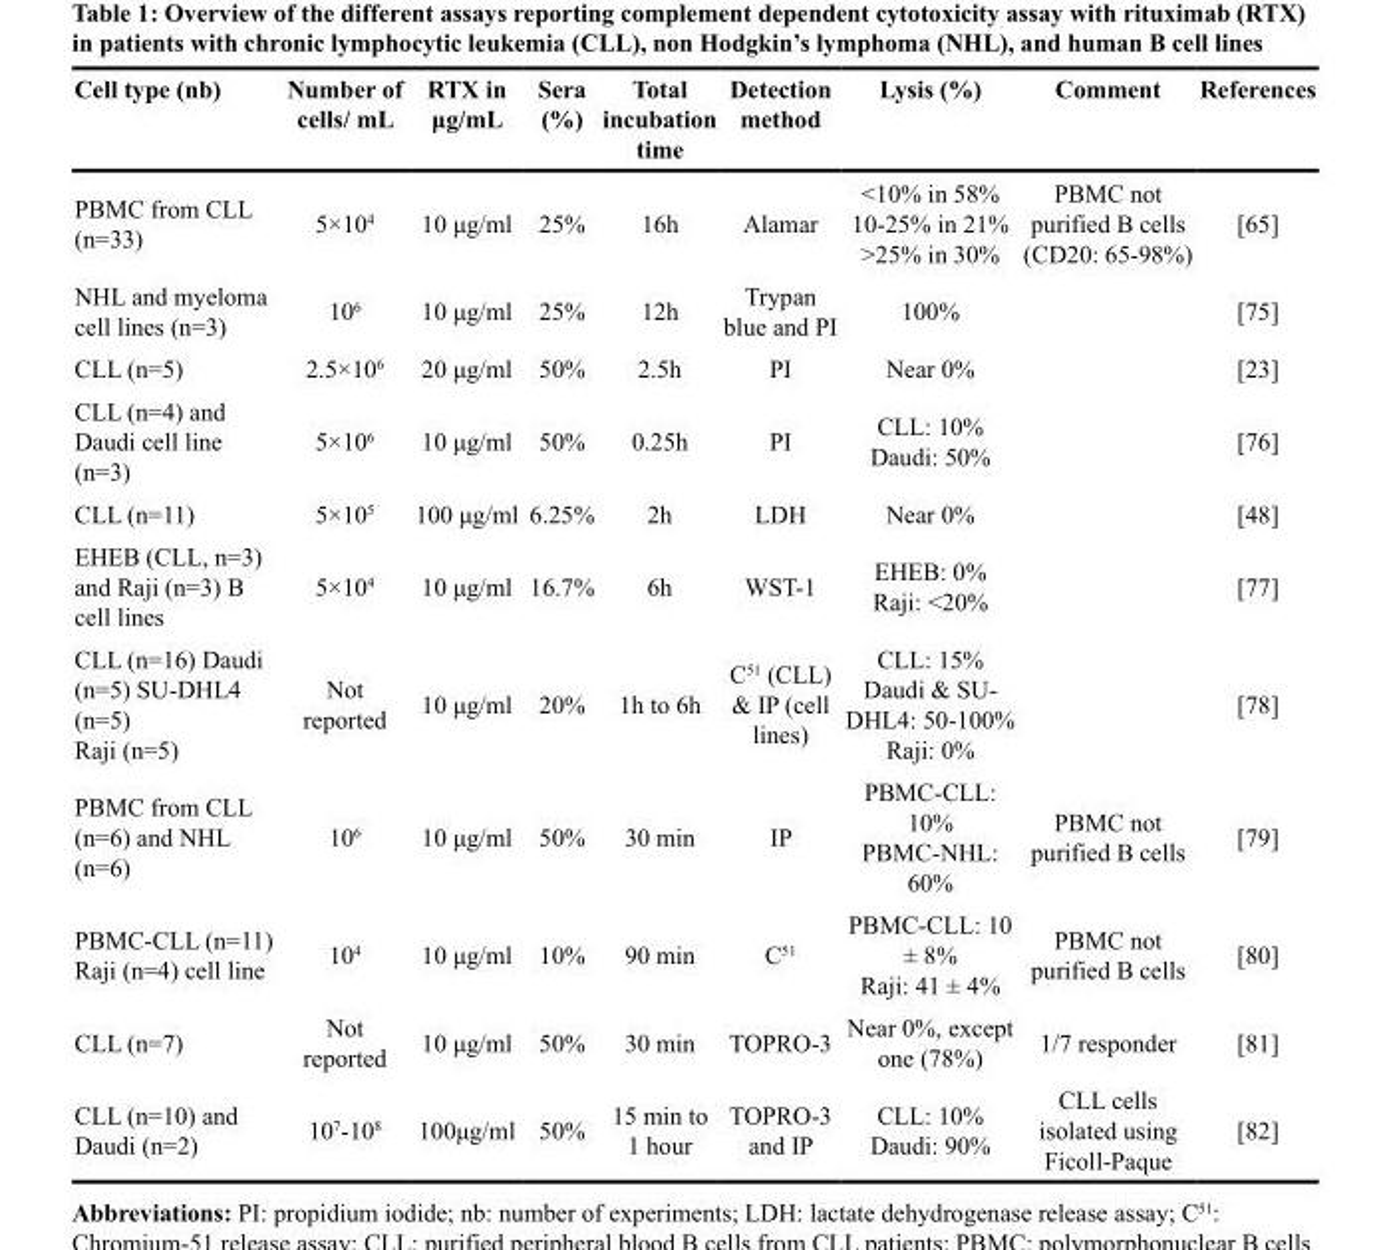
<table><thead><tr><td>Cell type (nb)</td><td>Number of cells/ mL</td><td>RTX in μg/mL</td><td>Sera (%)</td><td>Total incubation time</td><td>Detection method</td><td>Lysis (%)</td><td>Comment</td><td>References</td></tr></thead><tbody><tr><td>PBMC from CLL (n=33)</td><td>5×10<sup>4</sup></td><td>10 μg/ml</td><td>25%</td><td>16h</td><td>Alamar</td><td>&lt;10% in 58% 10-25% in 21% &gt;25% in 30%</td><td>PBMC not purified B cells (CD20: 65-98%)</td><td>[65]</td></tr><tr><td>NHL and myeloma cell lines (n=3)</td><td>10<sup>6</sup></td><td>10 μg/ml</td><td>25%</td><td>12h</td><td>Trypan blue and PI</td><td>100%</td><td></td><td>[75]</td></tr><tr><td>CLL (n=5)</td><td>2.5×10<sup>6</sup></td><td>20 μg/ml</td><td>50%</td><td>2.5h</td><td>PI</td><td>Near 0%</td><td></td><td>[23]</td></tr><tr><td>CLL (n=4) and Daudi cell line (n=3)</td><td>5×10<sup>6</sup></td><td>10 μg/ml</td><td>50%</td><td>0.25h</td><td>PI</td><td>CLL: 10% Daudi: 50%</td><td></td><td>[76]</td></tr><tr><td>CLL (n=11)</td><td>5×10<sup>5</sup></td><td>100 μg/ml</td><td>6.25%</td><td>2h</td><td>LDH</td><td>Near 0%</td><td></td><td>[48]</td></tr><tr><td>EHEB (CLL, n=3) and Raji (n=3) B cell lines</td><td>5×10<sup>4</sup></td><td>10 μg/ml</td><td>16.7%</td><td>6h</td><td>WST-1</td><td>EHEB: 0% Raji: &lt;20%</td><td></td><td>[77]</td></tr><tr><td>CLL (n=16) Daudi (n=5) SU-DHL4 (n=5) Raji (n=5)</td><td>Not reported</td><td>10 μg/ml</td><td>20%</td><td>1h to 6h</td><td>C<sup>51</sup> (CLL) &amp; IP (cell lines)</td><td>CLL: 15% Daudi &amp; SU- DHL4: 50-100% Raji: 0%</td><td></td><td>[78]</td></tr><tr><td>PBMC from CLL (n=6) and NHL (n=6)</td><td>10<sup>6</sup></td><td>10 μg/ml</td><td>50%</td><td>30 min</td><td>IP</td><td>PBMC-CLL: 10% PBMC-NHL: 60%</td><td>PBMC not purified B cells</td><td>[79]</td></tr><tr><td>PBMC-CLL (n=11) Raji (n=4) cell line</td><td>10<sup>4</sup></td><td>10 μg/ml</td><td>10%</td><td>90 min</td><td>C<sup>51</sup></td><td>PBMC-CLL: 10 ± 8% Raji: 41 ± 4%</td><td>PBMC not purified B cells</td><td>[80]</td></tr><tr><td>CLL (n=7)</td><td>Not reported</td><td>10 μg/ml</td><td>50%</td><td>30 min</td><td>TOPRO-3</td><td>Near 0%, except one (78%)</td><td>1/7 responder</td><td>[81]</td></tr><tr><td>CLL (n=10) and Daudi (n=2)</td><td>10<sup>7</sup>-10<sup>8</sup></td><td>100μg/ml</td><td>50%</td><td>15 min to 1 hour</td><td>TOPRO-3 and IP</td><td>CLL: 10% Daudi: 90%</td><td>CLL cells isolated using Ficoll-Paque</td><td>[82]</td></tr></tbody></table>